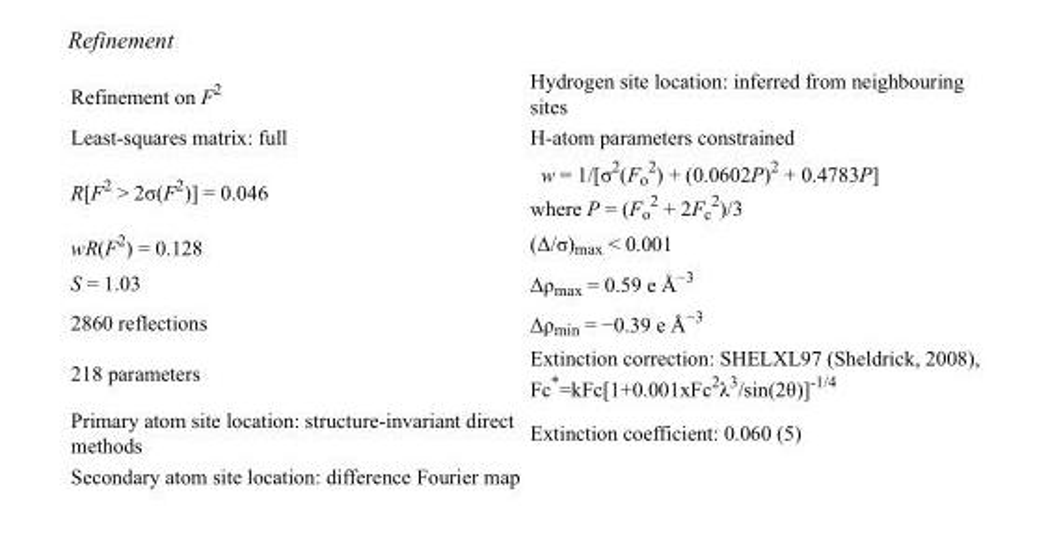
<table><tbody><tr><td>Refinement on F<sup>2</sup></td><td>Hydrogen site location: inferred from neighbouring sites</td></tr><tr><td>Least-squares matrix: full</td><td>H-atom parameters constrained</td></tr><tr><td>R[F<sup>2</sup> &gt; 2σ(F<sup>2</sup>)] = 0.046</td><td>w = 1/[σ<sup>2</sup>(F<sub>o</sub> <sup>2</sup>) + (0.0602P)<sup>2</sup> + 0.4783P] where P = (F<sub>o</sub> <sup>2</sup> + 2F<sub>c</sub> <sup>2</sup>)/3</td></tr><tr><td>wR(F<sup>2</sup>) = 0.128</td><td>(Δ/σ)<sub>max</sub> &lt; 0.001</td></tr><tr><td>S = 1.03</td><td>Δρ<sub>max</sub> = 0.59 e Å<sup>−3</sup></td></tr><tr><td>2860 reflections</td><td>Δρ<sub>min</sub> = −0.39 e Å<sup>−3</sup></td></tr><tr><td>218 parameters</td><td>Extinction correction: SHELXL97 (Sheldrick, 2008), Fc*=kFc[1+0.001xFc<sup>2</sup>λ<sup>3</sup>/sin(2θ)]<sup>-1/4</sup></td></tr><tr><td>Primary atom site location: structure-invariant direct methods</td><td>Extinction coefficient: 0.060 (5)</td></tr><tr><td>Secondary atom site location: difference Fourier map</td><td></td></tr></tbody></table>